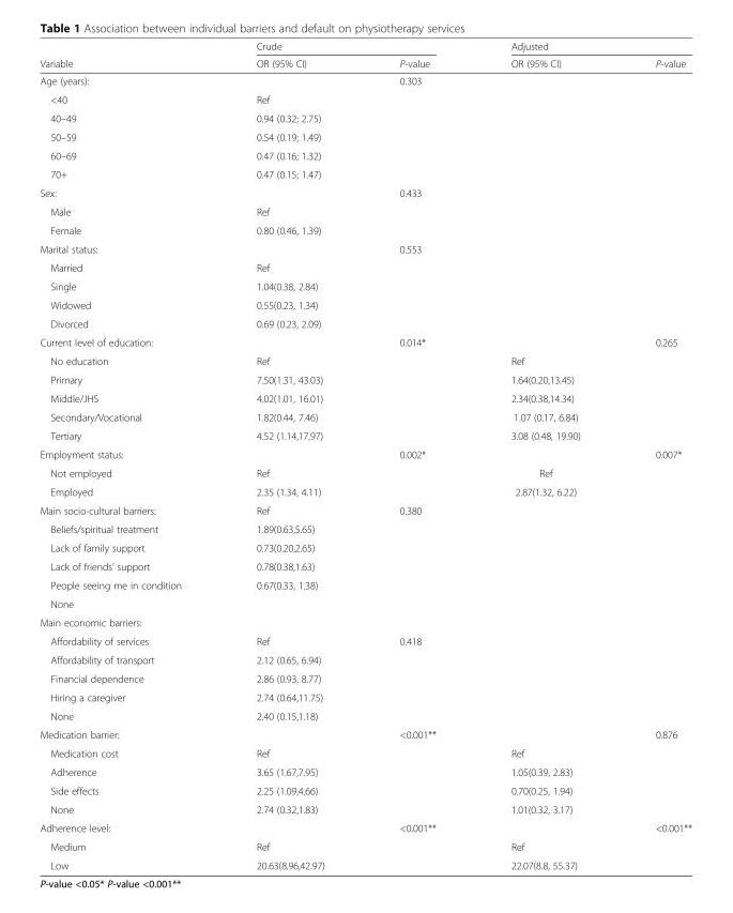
<table><thead><tr><td rowspan="2">Variable</td><td colspan="2">Crude</td><td colspan="2">Adjusted</td></tr><tr><td>OR (95% CI)</td><td>P-value</td><td>OR (95% CI)</td><td>P-value</td></tr></thead><tbody><tr><td>Age (years):</td><td></td><td>0.303</td><td></td><td></td></tr><tr><td>&lt;40</td><td>Ref</td><td></td><td></td><td></td></tr><tr><td>40–49</td><td>0.94 (0.32; 2.75)</td><td></td><td></td><td></td></tr><tr><td>50–59</td><td>0.54 (0.19; 1.49)</td><td></td><td></td><td></td></tr><tr><td>60–69</td><td>0.47 (0.16; 1.32)</td><td></td><td></td><td></td></tr><tr><td>70+</td><td>0.47 (0.15; 1.47)</td><td></td><td></td><td></td></tr><tr><td>Sex:</td><td></td><td>0.433</td><td></td><td></td></tr><tr><td>Male</td><td>Ref</td><td></td><td></td><td></td></tr><tr><td>Female</td><td>0.80 (0.46, 1.39)</td><td></td><td></td><td></td></tr><tr><td>Marital status:</td><td></td><td>0.553</td><td></td><td></td></tr><tr><td>Married</td><td>Ref</td><td></td><td></td><td></td></tr><tr><td>Single</td><td>1.04(0.38, 2.84)</td><td></td><td></td><td></td></tr><tr><td>Widowed</td><td>0.55(0.23, 1.34)</td><td></td><td></td><td></td></tr><tr><td>Divorced</td><td>0.69 (0.23, 2.09)</td><td></td><td></td><td></td></tr><tr><td>Current level of education:</td><td></td><td>0.014*</td><td></td><td>0.265</td></tr><tr><td>No education</td><td>Ref</td><td></td><td>Ref</td><td></td></tr><tr><td>Primary</td><td>7.50(1.31, 43.03)</td><td></td><td>1.64(0.20,13.45)</td><td></td></tr><tr><td>Middle/JHS</td><td>4.02(1.01, 16.01)</td><td></td><td>2.34(0.38,14.34)</td><td></td></tr><tr><td>Secondary/Vocational</td><td>1.82(0.44, 7.46)</td><td></td><td>1.07 (0.17, 6.84)</td><td></td></tr><tr><td>Tertiary</td><td>4.52 (1.14,17.97)</td><td></td><td>3.08 (0.48, 19.90)</td><td></td></tr><tr><td>Employment status:</td><td></td><td>0.002*</td><td></td><td>0.007*</td></tr><tr><td>Not employed</td><td>Ref</td><td></td><td>Ref</td><td></td></tr><tr><td>Employed</td><td>2.35 (1.34, 4.11)</td><td></td><td>2.87(1.32, 6.22)</td><td></td></tr><tr><td>Main socio-cultural barriers:</td><td>Ref</td><td>0.380</td><td></td><td></td></tr><tr><td>Beliefs/spiritual treatment</td><td>1.89(0.63,5.65)</td><td></td><td></td><td></td></tr><tr><td>Lack of family support</td><td>0.73(0.20,2.65)</td><td></td><td></td><td></td></tr><tr><td>Lack of friends’ support</td><td>0.78(0.38,1.63)</td><td></td><td></td><td></td></tr><tr><td>People seeing me in condition</td><td>0.67(0.33, 1.38)</td><td></td><td></td><td></td></tr><tr><td colspan="5">None</td></tr><tr><td colspan="5">Main economic barriers:</td></tr><tr><td>Affordability of services</td><td>Ref</td><td>0.418</td><td></td><td></td></tr><tr><td>Affordability of transport</td><td>2.12 (0.65, 6.94)</td><td></td><td></td><td></td></tr><tr><td>Financial dependence</td><td>2.86 (0.93, 8.77)</td><td></td><td></td><td></td></tr><tr><td>Hiring a caregiver</td><td>2.74 (0.64,11.75)</td><td></td><td></td><td></td></tr><tr><td>None</td><td>2.40 (0.15,1.18)</td><td></td><td></td><td></td></tr><tr><td>Medication barrier:</td><td></td><td>&lt;0.001**</td><td></td><td>0.876</td></tr><tr><td>Medication cost</td><td>Ref</td><td></td><td>Ref</td><td></td></tr><tr><td>Adherence</td><td>3.65 (1.67,7.95)</td><td></td><td>1.05(0.39, 2.83)</td><td></td></tr><tr><td>Side effects</td><td>2.25 (1.09,4.66)</td><td></td><td>0.70(0.25, 1.94)</td><td></td></tr><tr><td>None</td><td>2.74 (0.32,1.83)</td><td></td><td>1.01(0.32, 3.17)</td><td></td></tr><tr><td>Adherence level:</td><td></td><td>&lt;0.001**</td><td></td><td>&lt;0.001**</td></tr><tr><td>Medium</td><td>Ref</td><td></td><td>Ref</td><td></td></tr><tr><td>Low</td><td>20.63(8.96,42.97)</td><td></td><td>22.07(8.8, 55.37)</td><td></td></tr></tbody></table>